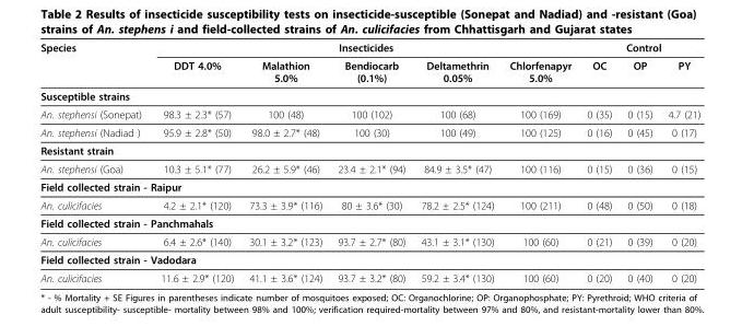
<table><thead><tr><td rowspan="2">Species</td><td colspan="5">Insecticides</td><td colspan="3">Control</td></tr><tr><td>DDT 4.0%</td><td>Malathion 5.0%</td><td>Bendiocarb (0.1%)</td><td>Deltamethrin 0.05%</td><td>Chlorfenapyr 5.0%</td><td>OC</td><td>OP</td><td>PY</td></tr></thead><tbody><tr><td colspan="9">Susceptible strains</td></tr><tr><td>An. stephensi (Sonepat)</td><td>98.3 ± 2.3* (57)</td><td>100 (48)</td><td>100 (102)</td><td>100 (68)</td><td>100 (169)</td><td>0 (35)</td><td>0 (15)</td><td>4.7 (21)</td></tr><tr><td>An. stephensi (Nadiad )</td><td>95.9 ± 2.8* (50)</td><td>98.0 ± 2.7* (48)</td><td>100 (30)</td><td>100 (49)</td><td>100 (125)</td><td>0 (16)</td><td>0 (45)</td><td>0 (17)</td></tr><tr><td colspan="9">Resistant strain</td></tr><tr><td>An. stephensi (Goa)</td><td>10.3 ± 5.1* (77)</td><td>26.2 ± 5.9* (46)</td><td>23.4 ± 2.1* (94)</td><td>84.9 ± 3.5* (47)</td><td>100 (116)</td><td>0 (15)</td><td>0 (36)</td><td>0 (15)</td></tr><tr><td colspan="9">Field collected strain - Raipur</td></tr><tr><td>An. culicifacies</td><td>4.2 ± 2.1* (120)</td><td>73.3 ± 3.9* (116)</td><td>80 ± 3.6* (30)</td><td>78.2 ± 2.5* (124)</td><td>100 (211)</td><td>0 (48)</td><td>0 (50)</td><td>0 (18)</td></tr><tr><td colspan="9">Field collected strain - Panchmahals</td></tr><tr><td>An. culicifacies</td><td>6.4 ± 2.6* (140)</td><td>30.1 ± 3.2* (123)</td><td>93.7 ± 2.7* (80)</td><td>43.1 ± 3.1* (130)</td><td>100 (60)</td><td>0 (21)</td><td>0 (39)</td><td>0 (20)</td></tr><tr><td colspan="9">Field collected strain - Vadodara</td></tr><tr><td>An. culicifacies</td><td>11.6 ± 2.9* (120)</td><td>41.1 ± 3.6* (124)</td><td>93.7 ± 3.2* (80)</td><td>59.2 ± 3.4* (130)</td><td>100 (60)</td><td>0 (20)</td><td>0 (40)</td><td>0 (20)</td></tr></tbody></table>